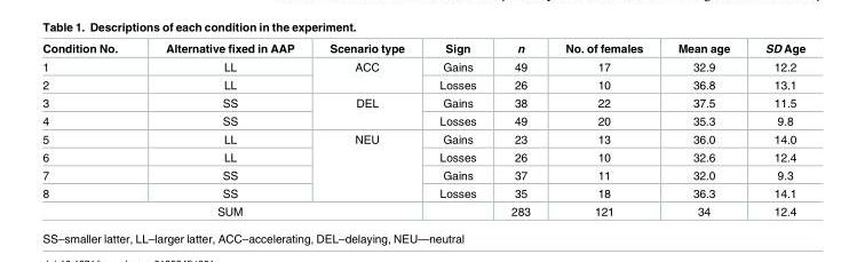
<table><thead><tr><td>Condition No.</td><td>Alternative fixed in AAP</td><td>Scenario type</td><td>Sign</td><td>n</td><td>No. of females</td><td>Mean age</td><td>SD Age</td></tr></thead><tbody><tr><td>1</td><td>LL</td><td rowspan="2">ACC</td><td>Gains</td><td>49</td><td>17</td><td>32.9</td><td>12.2</td></tr><tr><td>2</td><td>LL</td><td>Losses</td><td>26</td><td>10</td><td>36.8</td><td>13.1</td></tr><tr><td>3</td><td>SS</td><td rowspan="2">DEL</td><td>Gains</td><td>38</td><td>22</td><td>37.5</td><td>11.5</td></tr><tr><td>4</td><td>SS</td><td>Losses</td><td>49</td><td>20</td><td>35.3</td><td>9.8</td></tr><tr><td>5</td><td>LL</td><td rowspan="4">NEU</td><td>Gains</td><td>23</td><td>13</td><td>36.0</td><td>14.0</td></tr><tr><td>6</td><td>LL</td><td>Losses</td><td>26</td><td>10</td><td>32.6</td><td>12.4</td></tr><tr><td>7</td><td>SS</td><td>Gains</td><td>37</td><td>11</td><td>32.0</td><td>9.3</td></tr><tr><td>8</td><td>SS</td><td>Losses</td><td>35</td><td>18</td><td>36.3</td><td>14.1</td></tr><tr><td colspan="3">SUM</td><td></td><td>283</td><td>121</td><td>34</td><td>12.4</td></tr></tbody></table>